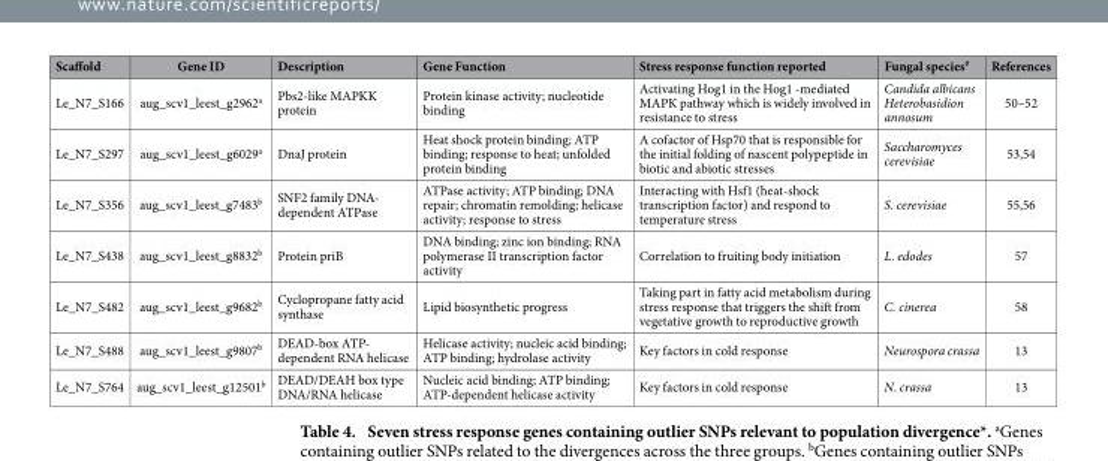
<table><thead><tr><td>Scaffold</td><td>Gene ID</td><td>Description</td><td>Gene Function</td><td>Stress response function reported</td><td>Fungal species<sup>#</sup></td><td>References</td></tr></thead><tbody><tr><td>Le_N7_S166</td><td>aug_scv1_leest_g2962<sup>a</sup></td><td>Pbs2-like MAPKK protein</td><td>Protein kinase activity; nucleotide binding</td><td>Activating Hog1 in the Hog1 -mediated MAPK pathway which is widely involved in resistance to stress</td><td>Candida albicans Heterobasidion annosum</td><td>50–52</td></tr><tr><td>Le_N7_S297</td><td>aug_scv1_leest_g6029<sup>a</sup></td><td>DnaJ protein</td><td>Heat shock protein binding; ATP binding; response to heat; unfolded protein binding</td><td>A cofactor of Hsp70 that is responsible for the initial folding of nascent polypeptide in biotic and abiotic stresses</td><td>Saccharomyces cerevisiae</td><td>53,54</td></tr><tr><td>Le_N7_S356</td><td>aug_scv1_leest_g7483<sup>b</sup></td><td>SNF2 family DNA- dependent ATPase</td><td>ATPase activity; ATP binding; DNA repair; chromatin remolding; helicase activity; response to stress</td><td>Interacting with Hsf1 (heat-shock transcription factor) and respond to temperature stress</td><td>S. cerevisiae</td><td>55,56</td></tr><tr><td>Le_N7_S438</td><td>aug_scv1_leest_g8832<sup>b</sup></td><td>Protein priB</td><td>DNA binding; zinc ion binding; RNA polymerase II transcription factor activity</td><td>Correlation to fruiting body initiation</td><td>L. edodes</td><td>57</td></tr><tr><td>Le_N7_S482</td><td>aug_scv1_leest_g9682<sup>b</sup></td><td>Cyclopropane fatty acid synthase</td><td>Lipid biosynthetic progress</td><td>Taking part in fatty acid metabolism during stress response that triggers the shift from vegetative growth to reproductive growth</td><td>C. cinerea</td><td>58</td></tr><tr><td>Le_N7_S488</td><td>aug_scv1_leest_g9807<sup>b</sup></td><td>DEAD-box ATP- dependent RNA helicase</td><td>Helicase activity; nucleic acid binding; ATP binding; hydrolase activity</td><td>Key factors in cold response</td><td>Neurospora crassa</td><td>13</td></tr><tr><td>Le_N7_S764</td><td>aug_scv1_leest_g12501<sup>b</sup></td><td>DEAD/DEAH box type DNA/RNA helicase</td><td>Nucleic acid binding; ATP binding; ATP-dependent helicase activity</td><td>Key factors in cold response</td><td>N. crassa</td><td>13</td></tr></tbody></table>